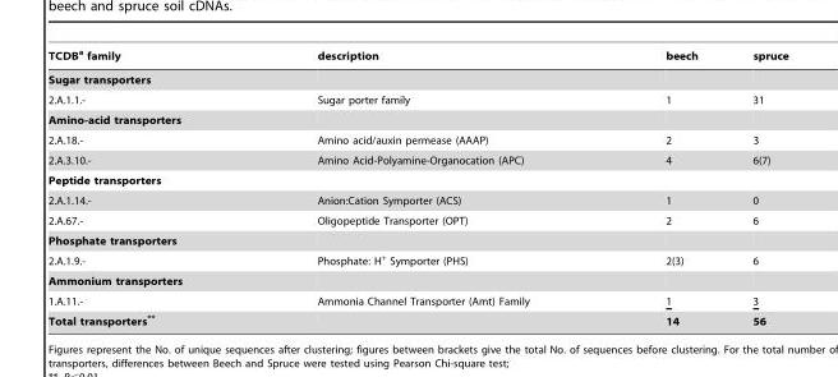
<table><thead><tr><td>TCDB<sup>a</sup> family</td><td>description</td><td>beech</td><td>spruce</td></tr></thead><tbody><tr><td colspan="4">Sugar transporters</td></tr><tr><td>2.A.1.1.-</td><td>Sugar porter family</td><td>1</td><td>31</td></tr><tr><td colspan="4">Amino-acid transporters</td></tr><tr><td>2.A.18.-</td><td>Amino acid/auxin permease (AAAP)</td><td>2</td><td>3</td></tr><tr><td>2.A.3.10.-</td><td>Amino Acid-Polyamine-Organocation (APC)</td><td>4</td><td>6(7)</td></tr><tr><td colspan="4">Peptide transporters</td></tr><tr><td>2.A.1.14.-</td><td>Anion:Cation Symporter (ACS)</td><td>1</td><td>0</td></tr><tr><td>2.A.67.-</td><td>Oligopeptide Transporter (OPT)</td><td>2</td><td>6</td></tr><tr><td colspan="4">Phosphate transporters</td></tr><tr><td>2.A.1.9.-</td><td>Phosphate: H<sup>+</sup> Symporter (PHS)</td><td>2(3)</td><td>6</td></tr><tr><td colspan="4">Ammonium transporters</td></tr><tr><td>1.A.11.-</td><td>Ammonia Channel Transporter (Amt) Family</td><td>1</td><td>3</td></tr><tr><td>Total transporters**</td><td></td><td>14</td><td>56</td></tr></tbody></table>